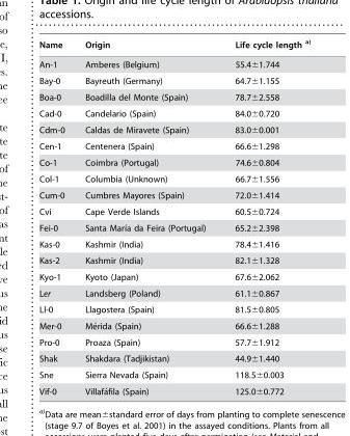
<table><thead><tr><td>Name</td><td>Origin</td><td>Life cycle length a)</td></tr></thead><tbody><tr><td>An-1</td><td>Amberes (Belgium)</td><td>55.4±1.744</td></tr><tr><td>Bay-0</td><td>Bayreuth (Germany)</td><td>64.7±1.155</td></tr><tr><td>Boa-0</td><td>Boadilla del Monte (Spain)</td><td>78.7±2.558</td></tr><tr><td>Cad-0</td><td>Candelario (Spain)</td><td>84.0±0.720</td></tr><tr><td>Cdm-0</td><td>Caldas de Miravete (Spain)</td><td>83.0±0.001</td></tr><tr><td>Cen-1</td><td>Centenera (Spain)</td><td>66.6±1.298</td></tr><tr><td>Co-1</td><td>Coimbra (Portugal)</td><td>74.6±0.804</td></tr><tr><td>Col-1</td><td>Columbia (Unknown)</td><td>66.7±1.556</td></tr><tr><td>Cum-0</td><td>Cumbres Mayores (Spain)</td><td>72.0±1.414</td></tr><tr><td>Cvi</td><td>Cape Verde Islands</td><td>60.5±0.724</td></tr><tr><td>Fei-0</td><td>Santa Marı´a da Feira (Portugal)</td><td>65.2±2.398</td></tr><tr><td>Kas-0</td><td>Kashmir (India)</td><td>78.4±1.416</td></tr><tr><td>Kas-2</td><td>Kashmir (India)</td><td>82.1±1.328</td></tr><tr><td>Kyo-1</td><td>Kyoto (Japan)</td><td>67.6±2.062</td></tr><tr><td>Ler</td><td>Landsberg (Poland)</td><td>61.1±0.867</td></tr><tr><td>Ll-0</td><td>Llagostera (Spain)</td><td>81.5±0.805</td></tr><tr><td>Mer-0</td><td>Me´rida (Spain)</td><td>66.6±1.288</td></tr><tr><td>Pro-0</td><td>Proaza (Spain)</td><td>57.7±1.912</td></tr><tr><td>Shak</td><td>Shakdara (Tadjikistan)</td><td>44.9±1.440</td></tr><tr><td>Sne</td><td>Sierra Nevada (Spain)</td><td>118.5±0.003</td></tr><tr><td>Vif-0</td><td>Villafa´fila (Spain)</td><td>125.0±0.772</td></tr></tbody></table>